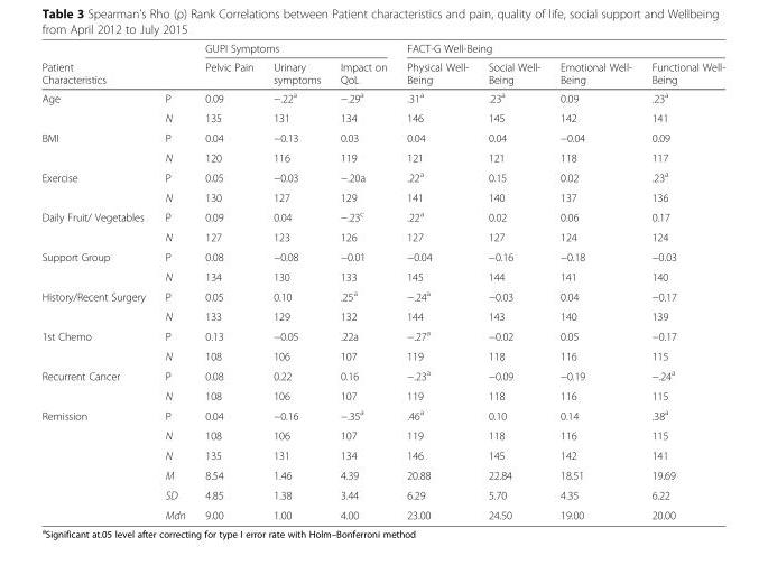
<table><thead><tr><td rowspan="2">Patient Characteristics</td><td rowspan="2"></td><td colspan="3">GUPI Symptoms</td><td colspan="4">FACT-G Well-Being</td></tr><tr><td>Pelvic Pain</td><td>Urinary symptoms</td><td>Impact on QoL</td><td>Physical Well- Being</td><td>Social Well- Being</td><td>Emotional Well- Being</td><td>Functional Well- Being</td></tr></thead><tbody><tr><td rowspan="2">Age</td><td>Ρ</td><td>0.09</td><td>−.22<sup>a</sup></td><td>−.29<sup>a</sup></td><td>.31<sup>a</sup></td><td>.23<sup>a</sup></td><td>0.09</td><td>.23<sup>a</sup></td></tr><tr><td>N</td><td>135</td><td>131</td><td>134</td><td>146</td><td>145</td><td>142</td><td>141</td></tr><tr><td rowspan="2">BMI</td><td>Ρ</td><td>0.04</td><td>−0.13</td><td>0.03</td><td>0.04</td><td>0.04</td><td>−0.04</td><td>0.09</td></tr><tr><td>N</td><td>120</td><td>116</td><td>119</td><td>121</td><td>121</td><td>118</td><td>117</td></tr><tr><td rowspan="2">Exercise</td><td>Ρ</td><td>0.05</td><td>−0.03</td><td>−.20a</td><td>.22<sup>a</sup></td><td>0.15</td><td>0.02</td><td>.23<sup>a</sup></td></tr><tr><td>N</td><td>130</td><td>127</td><td>129</td><td>141</td><td>140</td><td>137</td><td>136</td></tr><tr><td rowspan="2">Daily Fruit/ Vegetables</td><td>Ρ</td><td>0.09</td><td>0.04</td><td>−.23<sup>c</sup></td><td>.22<sup>a</sup></td><td>0.02</td><td>0.06</td><td>0.17</td></tr><tr><td>N</td><td>127</td><td>123</td><td>126</td><td>127</td><td>127</td><td>124</td><td>124</td></tr><tr><td rowspan="2">Support Group</td><td>Ρ</td><td>0.08</td><td>−0.08</td><td>−0.01</td><td>−0.04</td><td>−0.16</td><td>−0.18</td><td>−0.03</td></tr><tr><td>N</td><td>134</td><td>130</td><td>133</td><td>145</td><td>144</td><td>141</td><td>140</td></tr><tr><td rowspan="2">History/Recent Surgery</td><td>Ρ</td><td>0.05</td><td>0.10</td><td>.25<sup>a</sup></td><td>−.24<sup>a</sup></td><td>−0.03</td><td>0.04</td><td>−0.17</td></tr><tr><td>N</td><td>133</td><td>129</td><td>132</td><td>144</td><td>143</td><td>140</td><td>139</td></tr><tr><td rowspan="2">1st Chemo</td><td>Ρ</td><td>0.13</td><td>−0.05</td><td>.22a</td><td>−.27<sup>a</sup></td><td>−0.02</td><td>0.05</td><td>−0.17</td></tr><tr><td>N</td><td>108</td><td>106</td><td>107</td><td>119</td><td>118</td><td>116</td><td>115</td></tr><tr><td rowspan="2">Recurrent Cancer</td><td>Ρ</td><td>0.08</td><td>0.22</td><td>0.16</td><td>−.23<sup>a</sup></td><td>−0.09</td><td>−0.19</td><td>−.24<sup>a</sup></td></tr><tr><td>N</td><td>108</td><td>106</td><td>107</td><td>119</td><td>118</td><td>116</td><td>115</td></tr><tr><td rowspan="6">Remission</td><td>Ρ</td><td>0.04</td><td>−0.16</td><td>−.35<sup>a</sup></td><td>.46<sup>a</sup></td><td>0.10</td><td>0.14</td><td>.38<sup>a</sup></td></tr><tr><td>N</td><td>108</td><td>106</td><td>107</td><td>119</td><td>118</td><td>116</td><td>115</td></tr><tr><td>N</td><td>135</td><td>131</td><td>134</td><td>146</td><td>145</td><td>142</td><td>141</td></tr><tr><td>M</td><td>8.54</td><td>1.46</td><td>4.39</td><td>20.88</td><td>22.84</td><td>18.51</td><td>19.69</td></tr><tr><td>SD</td><td>4.85</td><td>1.38</td><td>3.44</td><td>6.29</td><td>5.70</td><td>4.35</td><td>6.22</td></tr><tr><td>Mdn</td><td>9.00</td><td>1.00</td><td>4.00</td><td>23.00</td><td>24.50</td><td>19.00</td><td>20.00</td></tr></tbody></table>